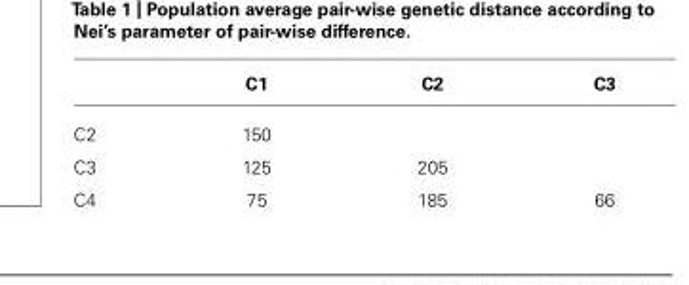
<table><thead><tr><td></td><td>C1</td><td>C2</td><td>C3</td></tr></thead><tbody><tr><td>C2</td><td>150</td><td></td><td></td></tr><tr><td>C3</td><td>125</td><td>205</td><td></td></tr><tr><td>C4</td><td>75</td><td>185</td><td>66</td></tr></tbody></table>